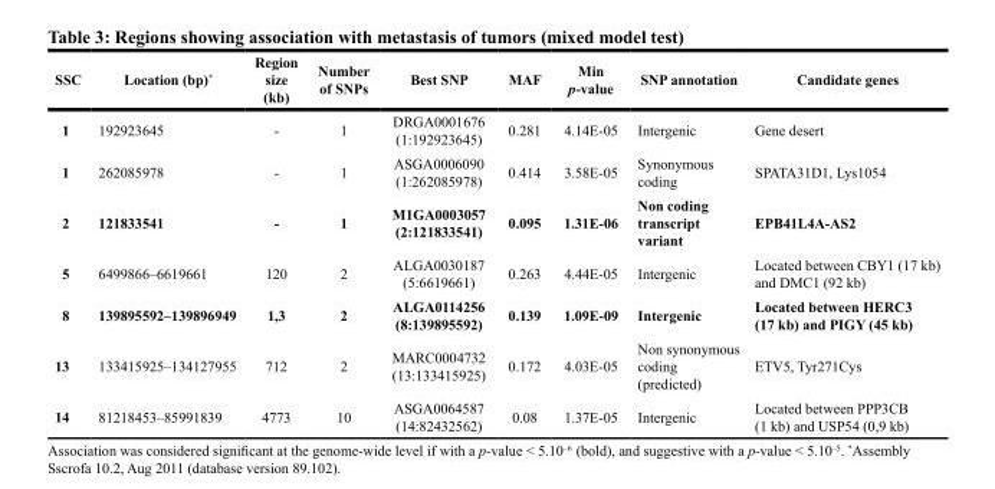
<table><thead><tr><td>SSC</td><td>Location (bp)*</td><td>Region size (kb)</td><td>Number of SNPs</td><td>Best SNP</td><td>MAF</td><td>Min p-value</td><td>SNP annotation</td><td>Candidate genes</td></tr></thead><tbody><tr><td>1</td><td>192923645</td><td>-</td><td>1</td><td>DRGA0001676 (1:192923645)</td><td>0.281</td><td>4.14E-05</td><td>Intergenic</td><td>Gene desert</td></tr><tr><td>1</td><td>262085978</td><td>-</td><td>1</td><td>ASGA0006090 (1:262085978)</td><td>0.414</td><td>3.58E-05</td><td>Synonymous coding</td><td>SPATA31D1, Lys1054</td></tr><tr><td>2</td><td>121833541</td><td>-</td><td>1</td><td>M1GA0003057 (2:121833541)</td><td>0.095</td><td>1.31E-06</td><td>Non coding transcript variant</td><td>EPB41L4A-AS2</td></tr><tr><td>5</td><td>6499866–6619661</td><td>120</td><td>2</td><td>ALGA0030187 (5:6619661)</td><td>0.263</td><td>4.44E-05</td><td>Intergenic</td><td>Located between CBY1 (17 kb) and DMC1 (92 kb)</td></tr><tr><td>8</td><td>139895592–139896949</td><td>1,3</td><td>2</td><td>ALGA0114256 (8:139895592)</td><td>0.139</td><td>1.09E-09</td><td>Intergenic</td><td>Located between HERC3 (17 kb) and PIGY (45 kb)</td></tr><tr><td>13</td><td>133415925–134127955</td><td>712</td><td>2</td><td>MARC0004732 (13:133415925)</td><td>0.172</td><td>4.03E-05</td><td>Non synonymous coding (predicted)</td><td>ETV5, Tyr271Cys</td></tr><tr><td>14</td><td>81218453–85991839</td><td>4773</td><td>10</td><td>ASGA0064587 (14:82432562)</td><td>0.08</td><td>1.37E-05</td><td>Intergenic</td><td>Located between PPP3CB (1 kb) and USP54 (0,9 kb)</td></tr></tbody></table>